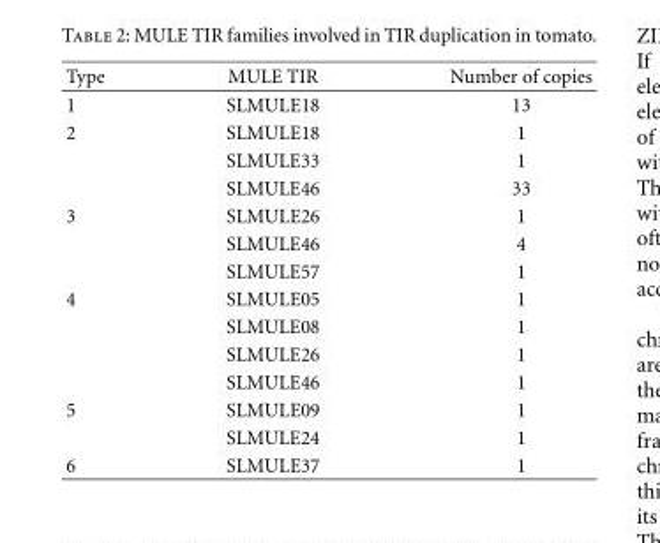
<table><thead><tr><td>Type</td><td>MULE TIR</td><td>Number of copies</td></tr></thead><tbody><tr><td>1</td><td>SLMULE18</td><td>13</td></tr><tr><td rowspan="3">2</td><td>SLMULE18</td><td>1</td></tr><tr><td>SLMULE33</td><td>1</td></tr><tr><td>SLMULE46</td><td>33</td></tr><tr><td rowspan="3">3</td><td>SLMULE26</td><td>1</td></tr><tr><td>SLMULE46</td><td>4</td></tr><tr><td>SLMULE57</td><td>1</td></tr><tr><td rowspan="4">4</td><td>SLMULE05</td><td>1</td></tr><tr><td>SLMULE08</td><td>1</td></tr><tr><td>SLMULE26</td><td>1</td></tr><tr><td>SLMULE46</td><td>1</td></tr><tr><td rowspan="2">5</td><td>SLMULE09</td><td>1</td></tr><tr><td>SLMULE24</td><td>1</td></tr><tr><td>6</td><td>SLMULE37</td><td>1</td></tr></tbody></table>